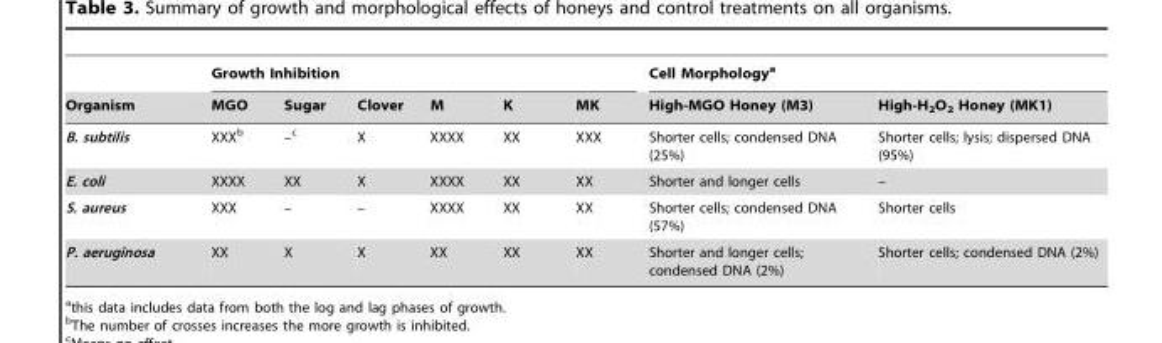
<table><thead><tr><td rowspan="2">Organism</td><td colspan="6">Growth Inhibition</td><td colspan="2">Cell Morphology<sup>a</sup></td></tr><tr><td>MGO</td><td>Sugar</td><td>Clover</td><td>M</td><td>K</td><td>MK</td><td>High-MGO Honey (M3)</td><td>High-H<sub>2</sub>O<sub>2</sub> Honey (MK1)</td></tr></thead><tbody><tr><td>B. subtilis</td><td>XXX<sup>b</sup></td><td>–c</td><td>X</td><td>XXXX</td><td>XX</td><td>XXX</td><td>Shorter cells; condensed DNA (25%)</td><td>Shorter cells; lysis; dispersed DNA (95%)</td></tr><tr><td>E. coli</td><td>XXXX</td><td>XX</td><td>X</td><td>XXXX</td><td>XX</td><td>XX</td><td>Shorter and longer cells</td><td>–</td></tr><tr><td>S. aureus</td><td>XXX</td><td>–</td><td>–</td><td>XXXX</td><td>XX</td><td>XX</td><td>Shorter cells; condensed DNA (57%)</td><td>Shorter cells</td></tr><tr><td>P. aeruginosa</td><td>XX</td><td>X</td><td>X</td><td>XX</td><td>XX</td><td>XX</td><td>Shorter and longer cells; condensed DNA (2%)</td><td>Shorter cells; condensed DNA (2%)</td></tr></tbody></table>